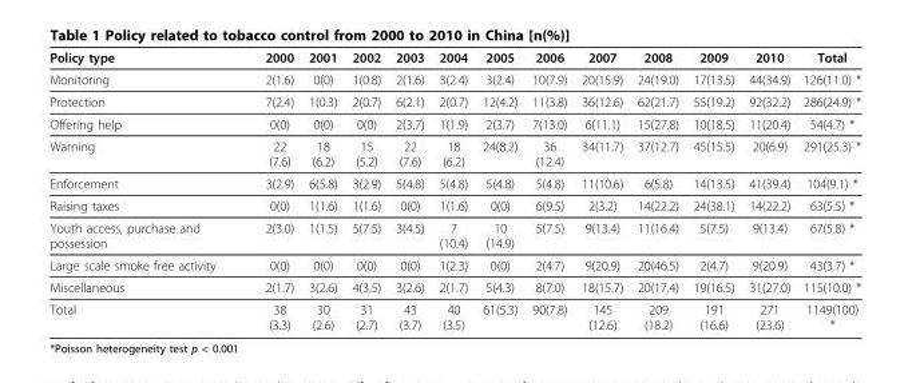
<table><thead><tr><td>Policy type</td><td>2000</td><td>2001</td><td>2002</td><td>2003</td><td>2004</td><td>2005</td><td>2006</td><td>2007</td><td>2008</td><td>2009</td><td>2010</td><td>Total</td></tr></thead><tbody><tr><td>Monitoring</td><td>2(1.6)</td><td>0(0)</td><td>1(0.8)</td><td>2(1.6)</td><td>3(2.4)</td><td>3(2.4)</td><td>10(7.9)</td><td>20(15.9)</td><td>24(19.0)</td><td>17(13.5)</td><td>44(34.9)</td><td>126(11.0) *</td></tr><tr><td>Protection</td><td>7(2.4)</td><td>1(0.3)</td><td>2(0.7)</td><td>6(2.1)</td><td>2(0.7)</td><td>12(4.2)</td><td>11(3.8)</td><td>36(12.6)</td><td>62(21.7)</td><td>55(19.2)</td><td>92(32.2)</td><td>286(24.9) *</td></tr><tr><td>Offering help</td><td>0(0)</td><td>0(0)</td><td>0(0)</td><td>2(3.7)</td><td>1(1.9)</td><td>2(3.7)</td><td>7(13.0)</td><td>6(11.1)</td><td>15(27.8)</td><td>10(18.5)</td><td>11(20.4)</td><td>54(4.7) *</td></tr><tr><td>Warning</td><td>22 (7.6)</td><td>18 (6.2)</td><td>15 (5.2)</td><td>22 (7.6)</td><td>18 (6.2)</td><td>24(8.2)</td><td>36 (12.4)</td><td>34(11.7)</td><td>37(12.7)</td><td>45(15.5)</td><td>20(6.9)</td><td>291(25.3) *</td></tr><tr><td>Enforcement</td><td>3(2.9)</td><td>6(5.8)</td><td>3(2.9)</td><td>5(4.8)</td><td>5(4.8)</td><td>5(4.8)</td><td>5(4.8)</td><td>11(10.6)</td><td>6(5.8)</td><td>14(13.5)</td><td>41(39.4)</td><td>104(9.1) *</td></tr><tr><td>Raising taxes</td><td>0(0)</td><td>1(1.6)</td><td>1(1.6)</td><td>0(0)</td><td>1(1.6)</td><td>0(0)</td><td>6(9.5)</td><td>2(3.2)</td><td>14(22.2)</td><td>24(38.1)</td><td>14(22.2)</td><td>63(5.5) *</td></tr><tr><td>Youth access, purchase and possession</td><td>2(3.0)</td><td>1(1.5)</td><td>5(7.5)</td><td>3(4.5)</td><td>7 (10.4)</td><td>10 (14.9)</td><td>5(7.5)</td><td>9(13.4)</td><td>11(16.4)</td><td>5(7.5)</td><td>9(13.4)</td><td>67(5.8) *</td></tr><tr><td>Large scale smoke free activity</td><td>0(0)</td><td>0(0)</td><td>0(0)</td><td>0(0)</td><td>1(2.3)</td><td>0(0)</td><td>2(4.7)</td><td>9(20.9)</td><td>20(46.5)</td><td>2(4.7)</td><td>9(20.9)</td><td>43(3.7) *</td></tr><tr><td>Miscellaneous</td><td>2(1.7)</td><td>3(2.6)</td><td>4(3.5)</td><td>3(2.6)</td><td>2(1.7)</td><td>5(4.3)</td><td>8(7.0)</td><td>18(15.7)</td><td>20(17.4)</td><td>19(16.5)</td><td>31(27.0)</td><td>115(10.0) *</td></tr><tr><td>Total</td><td>38 (3.3)</td><td>30 (2.6)</td><td>31 (2.7)</td><td>43 (3.7)</td><td>40 (3.5)</td><td>61(5.3)</td><td>90(7.8)</td><td>145 (12.6)</td><td>209 (18.2)</td><td>191 (16.6)</td><td>271 (23.6)</td><td>1149(100) *</td></tr></tbody></table>